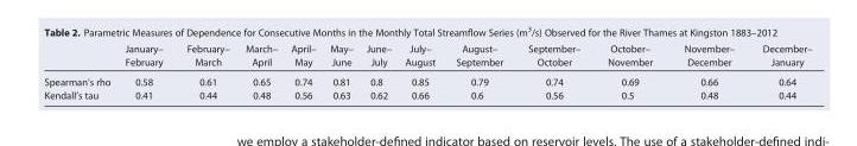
<table><thead><tr><td></td><td>January– February</td><td>February– March</td><td>March– April</td><td>April– May</td><td>May– June</td><td>June– July</td><td>July– August</td><td>August– September</td><td>September– October</td><td>October– November</td><td>November– December</td><td>December– January</td></tr></thead><tbody><tr><td>Spearman’s rho</td><td>0.58</td><td>0.61</td><td>0.65</td><td>0.74</td><td>0.81</td><td>0.8</td><td>0.85</td><td>0.79</td><td>0.74</td><td>0.69</td><td>0.66</td><td>0.64</td></tr><tr><td>Kendall’s tau</td><td>0.41</td><td>0.44</td><td>0.48</td><td>0.56</td><td>0.63</td><td>0.62</td><td>0.66</td><td>0.6</td><td>0.56</td><td>0.5</td><td>0.48</td><td>0.44</td></tr></tbody></table>